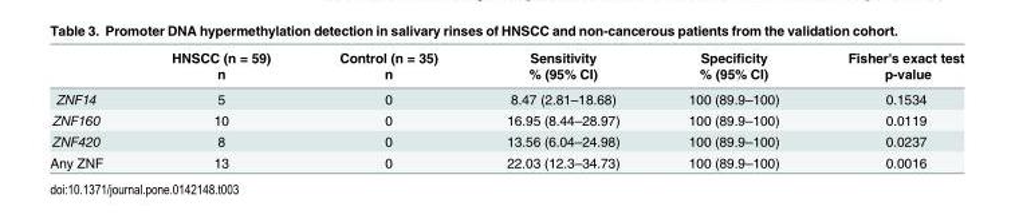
<table><thead><tr><td rowspan="2"></td><td rowspan="2">HNSCC (n = 59) n</td><td rowspan="2">Control (n = 35) n</td><td rowspan="2">Sensitivity % (95% CI)</td><td rowspan="2">Specificity % (95% CI)</td><td rowspan="2">Fisher&#x27;s exact test p-value</td></tr><tr></tr></thead><tbody><tr><td>ZNF14</td><td>5</td><td>0</td><td>8.47 (2.81–18.68)</td><td>100 (89.9–100)</td><td>0.1534</td></tr><tr><td>ZNF160</td><td>10</td><td>0</td><td>16.95 (8.44–28.97)</td><td>100 (89.9–100)</td><td>0.0119</td></tr><tr><td>ZNF420</td><td>8</td><td>0</td><td>13.56 (6.04–24.98)</td><td>100 (89.9–100)</td><td>0.0237</td></tr><tr><td>Any ZNF</td><td>13</td><td>0</td><td>22.03 (12.3–34.73)</td><td>100 (89.9–100)</td><td>0.0016</td></tr></tbody></table>